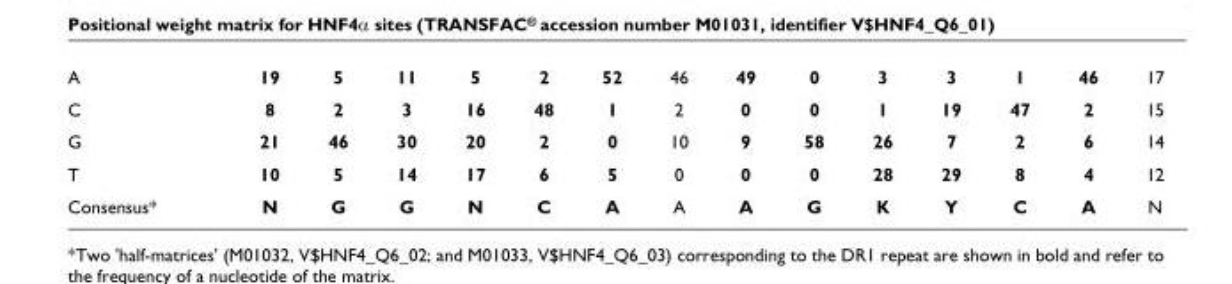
<table><tbody><tr><td>A</td><td>19</td><td>5</td><td>11</td><td>5</td><td>2</td><td>52</td><td>46</td><td>49</td><td>0</td><td>3</td><td>3</td><td>1</td><td>46</td><td>17</td></tr><tr><td>C</td><td>8</td><td>2</td><td>3</td><td>16</td><td>48</td><td>1</td><td>2</td><td>0</td><td>0</td><td>1</td><td>19</td><td>47</td><td>2</td><td>15</td></tr><tr><td>G</td><td>21</td><td>46</td><td>30</td><td>20</td><td>2</td><td>0</td><td>10</td><td>9</td><td>58</td><td>26</td><td>7</td><td>2</td><td>6</td><td>14</td></tr><tr><td>T</td><td>10</td><td>5</td><td>14</td><td>17</td><td>6</td><td>5</td><td>0</td><td>0</td><td>0</td><td>28</td><td>29</td><td>8</td><td>4</td><td>12</td></tr><tr><td>Consensus*</td><td>N</td><td>G</td><td>G</td><td>N</td><td>C</td><td>A</td><td>A</td><td>A</td><td>G</td><td>K</td><td>Y</td><td>C</td><td>A</td><td>N</td></tr></tbody></table>